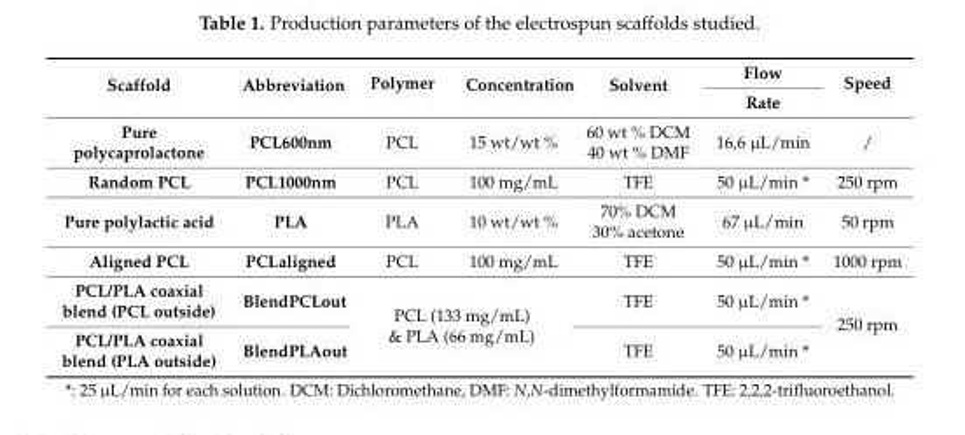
<table><thead><tr><td rowspan="2">Scaffold</td><td rowspan="2">Abbreviation</td><td rowspan="2">Polymer</td><td rowspan="2">Concentration</td><td rowspan="2">Solvent</td><td rowspan="2">Flow Rate</td><td rowspan="2">Speed</td></tr><tr></tr></thead><tbody><tr><td>Pure polycaprolactone</td><td>PCL600nm</td><td>PCL</td><td>15 wt/wt %</td><td>60 wt % DCM 40 wt % DMF</td><td>16,6 µL/min</td><td>/</td></tr><tr><td>Random PCL</td><td>PCL1000nm</td><td>PCL</td><td>100 mg/mL</td><td>TFE</td><td>50 µL/min *</td><td>250 rpm</td></tr><tr><td>Pure polylactic acid</td><td>PLA</td><td>PLA</td><td>10 wt/wt %</td><td>70% DCM 30% acetone</td><td>67 µL/min</td><td>50 rpm</td></tr><tr><td>Aligned PCL</td><td>PCLaligned</td><td>PCL</td><td>100 mg/mL</td><td>TFE</td><td>50 µL/min *</td><td>1000 rpm</td></tr><tr><td>PCL/PLA coaxial blend (PCL outside)</td><td>BlendPCLout</td><td rowspan="2" colspan="2">PCL (133 mg/mL) &amp; PLA (66 mg/mL)</td><td>TFE</td><td>50 µL/min *</td><td rowspan="2">250 rpm</td></tr><tr><td>PCL/PLA coaxial blend (PLA outside)</td><td>BlendPLAout</td><td>TFE</td><td>50 µL/min *</td></tr></tbody></table>